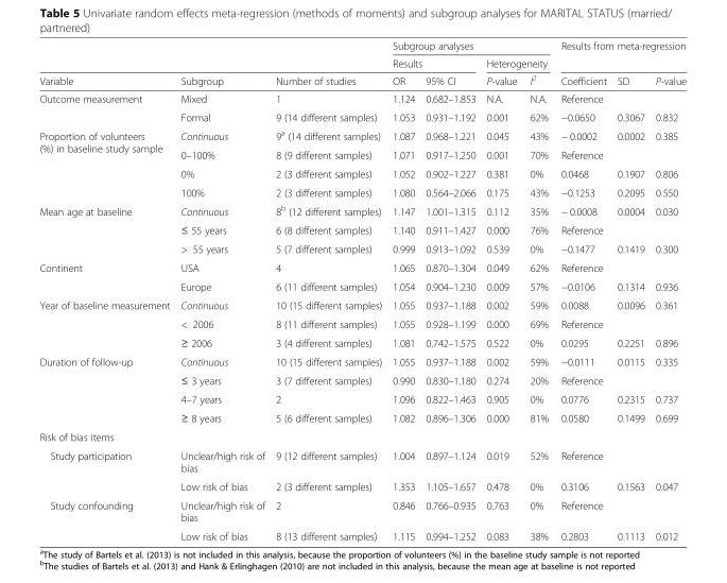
<table><thead><tr><td rowspan="3">Variable</td><td rowspan="3">Subgroup</td><td rowspan="3">Number of studies</td><td colspan="4">Subgroup analyses</td><td rowspan="2" colspan="3">Results from meta-regression</td></tr><tr><td colspan="2">Results</td><td colspan="2">Heterogeneity</td></tr><tr><td>OR</td><td>95% CI</td><td>P-value</td><td>I<sup>2</sup></td><td>Coefficient</td><td>SD</td><td>P-value</td></tr></thead><tbody><tr><td rowspan="2">Outcome measurement</td><td>Mixed</td><td>1</td><td>1.124</td><td>0.682–1.853</td><td>N.A.</td><td>N.A.</td><td colspan="3">Reference</td></tr><tr><td>Formal</td><td>9 (14 different samples)</td><td>1.053</td><td>0.931–1.192</td><td>0.001</td><td>62%</td><td>−0.0650</td><td>0.3067</td><td>0.832</td></tr><tr><td rowspan="4">Proportion of volunteers (%) in baseline study sample</td><td>Continuous</td><td>9<sup>a</sup> (14 different samples)</td><td>1.087</td><td>0.968–1.221</td><td>0.045</td><td>43%</td><td>− 0.0002</td><td>0.0002</td><td>0.385</td></tr><tr><td>0–100%</td><td>8 (9 different samples)</td><td>1.071</td><td>0.917–1.250</td><td>0.001</td><td>70%</td><td>Reference</td><td></td><td></td></tr><tr><td>0%</td><td>2 (3 different samples)</td><td>1.052</td><td>0.902–1.227</td><td>0.381</td><td>0%</td><td>0.0468</td><td>0.1907</td><td>0.806</td></tr><tr><td>100%</td><td>2 (3 different samples)</td><td>1.080</td><td>0.564–2.066</td><td>0.175</td><td>43%</td><td>−0.1253</td><td>0.2095</td><td>0.550</td></tr><tr><td rowspan="3">Mean age at baseline</td><td>Continuous</td><td>8<sup>b</sup> (12 different samples)</td><td>1.147</td><td>1.001–1.315</td><td>0.112</td><td>35%</td><td>− 0.0008</td><td>0.0004</td><td>0.030</td></tr><tr><td>≤ 55 years</td><td>6 (8 different samples)</td><td>1.140</td><td>0.911–1.427</td><td>0.000</td><td>76%</td><td>Reference</td><td></td><td></td></tr><tr><td>&gt; 55 years</td><td>5 (7 different samples)</td><td>0.999</td><td>0.913–1.092</td><td>0.539</td><td>0%</td><td>−0.1477</td><td>0.1419</td><td>0.300</td></tr><tr><td rowspan="2">Continent</td><td>USA</td><td>4</td><td>1.065</td><td>0.870–1.304</td><td>0.049</td><td>62%</td><td colspan="3">Reference</td></tr><tr><td>Europe</td><td>6 (11 different samples)</td><td>1.054</td><td>0.904–1.230</td><td>0.009</td><td>57%</td><td>−0.0106</td><td>0.1314</td><td>0.936</td></tr><tr><td rowspan="3">Year of baseline measurement</td><td>Continuous</td><td>10 (15 different samples)</td><td>1.055</td><td>0.937–1.188</td><td>0.002</td><td>59%</td><td>0.0088</td><td>0.0096</td><td>0.361</td></tr><tr><td>&lt; 2006</td><td>8 (11 different samples)</td><td>1.055</td><td>0.928–1.199</td><td>0.000</td><td>69%</td><td>Reference</td><td></td><td></td></tr><tr><td>≥ 2006</td><td>3 (4 different samples)</td><td>1.081</td><td>0.742–1.575</td><td>0.522</td><td>0%</td><td>0.0295</td><td>0.2251</td><td>0.896</td></tr><tr><td rowspan="4">Duration of follow-up</td><td>Continuous</td><td>10 (15 different samples)</td><td>1.055</td><td>0.937–1.188</td><td>0.002</td><td>59%</td><td>−0.0111</td><td>0.0115</td><td>0.335</td></tr><tr><td>≤ 3 years</td><td>3 (7 different samples)</td><td>0.990</td><td>0.830–1.180</td><td>0.274</td><td>20%</td><td>Reference</td><td></td><td></td></tr><tr><td>4–7 years</td><td>2</td><td>1.096</td><td>0.822–1.463</td><td>0.905</td><td>0%</td><td>0.0776</td><td>0.2315</td><td>0.737</td></tr><tr><td>≥ 8 years</td><td>5 (6 different samples)</td><td>1.082</td><td>0.896–1.306</td><td>0.000</td><td>81%</td><td>0.0580</td><td>0.1499</td><td>0.699</td></tr><tr><td colspan="10">Risk of bias items</td></tr><tr><td rowspan="2">Study participation</td><td>Unclear/high risk of bias</td><td>9 (12 different samples)</td><td>1.004</td><td>0.897–1.124</td><td>0.019</td><td>52%</td><td colspan="3">Reference</td></tr><tr><td>Low risk of bias</td><td>2 (3 different samples)</td><td>1.353</td><td>1.105–1.657</td><td>0.478</td><td>0%</td><td>0.3106</td><td>0.1563</td><td>0.047</td></tr><tr><td rowspan="2">Study confounding</td><td>Unclear/high risk of bias</td><td>2</td><td>0.846</td><td>0.766–0.935</td><td>0.763</td><td>0%</td><td colspan="3">Reference</td></tr><tr><td>Low risk of bias</td><td>8 (13 different samples)</td><td>1.115</td><td>0.994–1.252</td><td>0.083</td><td>38%</td><td>0.2803</td><td>0.1113</td><td>0.012</td></tr></tbody></table>